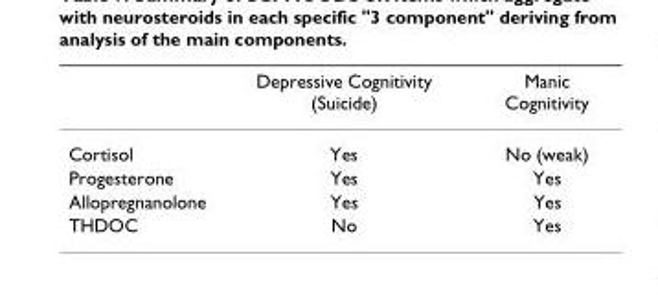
<table><thead><tr><td></td><td>Depressive Cognitivity (Suicide)</td><td>Manic Cognitivity</td></tr></thead><tbody><tr><td>Cortisol</td><td>Yes</td><td>No (weak)</td></tr><tr><td>Progesterone</td><td>Yes</td><td>Yes</td></tr><tr><td>Allopregnanolone</td><td>Yes</td><td>Yes</td></tr><tr><td>THDOC</td><td>No</td><td>Yes</td></tr></tbody></table>